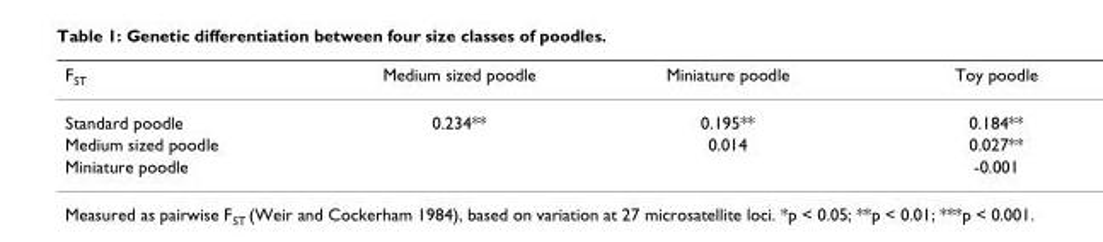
<table><thead><tr><td>F<sub>ST</sub></td><td>Medium sized poodle</td><td>Miniature poodle</td><td>Toy poodle</td></tr></thead><tbody><tr><td>Standard poodle</td><td>0.234**</td><td>0.195**</td><td>0.184**</td></tr><tr><td>Medium sized poodle</td><td></td><td>0.014</td><td>0.027**</td></tr><tr><td>Miniature poodle</td><td></td><td></td><td>-0.001</td></tr></tbody></table>